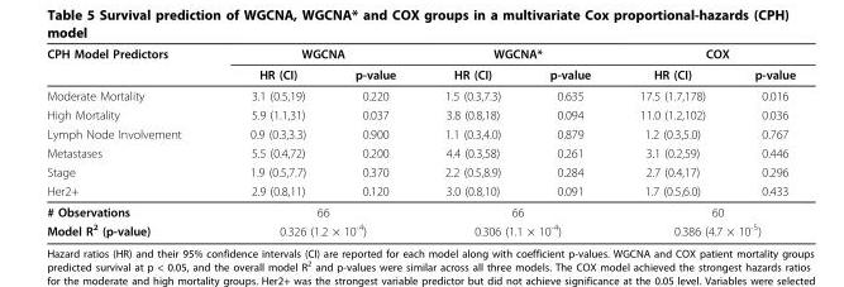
<table><thead><tr><td rowspan="2">CPH Model Predictors</td><td colspan="2">WGCNA</td><td colspan="2">WGCNA*</td><td colspan="2">COX</td></tr><tr><td>HR (CI)</td><td>p-value</td><td>HR (CI)</td><td>p-value</td><td>HR (CI)</td><td>p-value</td></tr></thead><tbody><tr><td>Moderate Mortality</td><td>3.1 (0.5,19)</td><td>0.220</td><td>1.5 (0.3,7.3)</td><td>0.635</td><td>17.5 (1.7,178)</td><td>0.016</td></tr><tr><td>High Mortality</td><td>5.9 (1.1,31)</td><td>0.037</td><td>3.8 (0.8,18)</td><td>0.094</td><td>11.0 (1.2,102)</td><td>0.036</td></tr><tr><td>Lymph Node Involvement</td><td>0.9 (0.3,3.3)</td><td>0.900</td><td>1.1 (0.3,4.0)</td><td>0.879</td><td>1.2 (0.3,5.0)</td><td>0.767</td></tr><tr><td>Metastases</td><td>5.5 (0.4,72)</td><td>0.200</td><td>4.4 (0.3,58)</td><td>0.261</td><td>3.1 (0.2,59)</td><td>0.446</td></tr><tr><td>Stage</td><td>1.9 (0.5,7.7)</td><td>0.370</td><td>2.2 (0.5,8.9)</td><td>0.284</td><td>2.7 (0.4,17)</td><td>0.296</td></tr><tr><td>Her2+</td><td>2.9 (0.8,11)</td><td>0.120</td><td>3.0 (0.8,10)</td><td>0.091</td><td>1.7 (0.5,6.0)</td><td>0.433</td></tr><tr><td># Observations</td><td colspan="2">66</td><td colspan="2">66</td><td colspan="2">60</td></tr><tr><td>Model R<sup>2</sup> (p-value)</td><td colspan="2">0.326 (1.2 × 10<sup>-4</sup>)</td><td colspan="2">0.306 (1.1 × 10<sup>-4</sup>)</td><td colspan="2">0.386 (4.7 × 10<sup>-5</sup>)</td></tr></tbody></table>